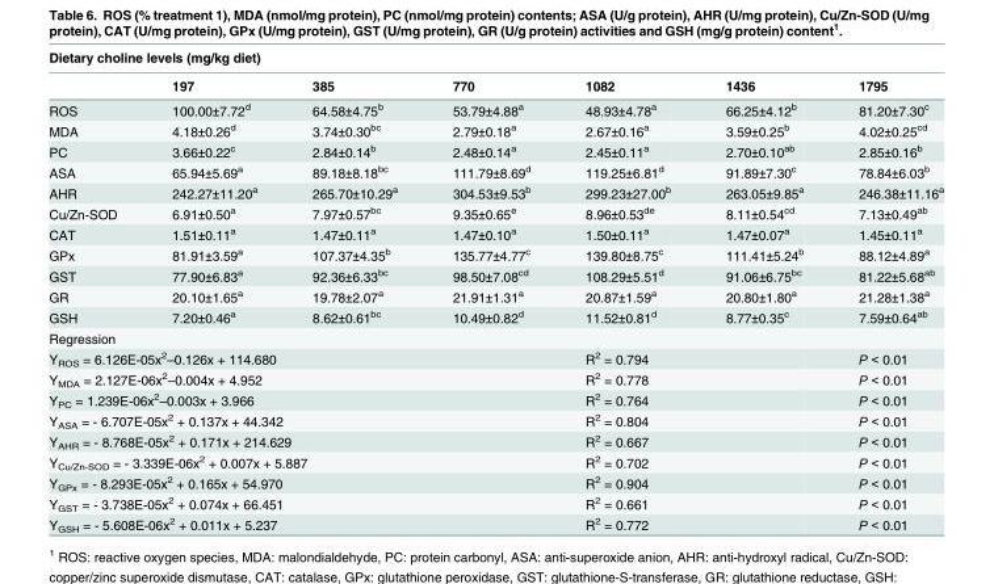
<table><thead><tr><td colspan="7">Dietary choline levels (mg/kg diet)</td></tr><tr><td></td><td>197</td><td>385</td><td>770</td><td>1082</td><td>1436</td><td>1795</td></tr></thead><tbody><tr><td>ROS</td><td>100.00±7.72<sup>d</sup></td><td>64.58±4.75<sup>b</sup></td><td>53.79±4.88<sup>a</sup></td><td>48.93±4.78<sup>a</sup></td><td>66.25±4.12<sup>b</sup></td><td>81.20±7.30<sup>c</sup></td></tr><tr><td>MDA</td><td>4.18±0.26<sup>d</sup></td><td>3.74±0.30<sup>bc</sup></td><td>2.79±0.18<sup>a</sup></td><td>2.67±0.16<sup>a</sup></td><td>3.59±0.25<sup>b</sup></td><td>4.02±0.25<sup>cd</sup></td></tr><tr><td>PC</td><td>3.66±0.22<sup>c</sup></td><td>2.84±0.14<sup>b</sup></td><td>2.48±0.14<sup>a</sup></td><td>2.45±0.11<sup>a</sup></td><td>2.70±0.10<sup>ab</sup></td><td>2.85±0.16<sup>b</sup></td></tr><tr><td>ASA</td><td>65.94±5.69<sup>a</sup></td><td>89.18±8.18<sup>bc</sup></td><td>111.79±8.69<sup>d</sup></td><td>119.25±6.81<sup>d</sup></td><td>91.89±7.30<sup>c</sup></td><td>78.84±6.03<sup>b</sup></td></tr><tr><td>AHR</td><td>242.27±11.20<sup>a</sup></td><td>265.70±10.29<sup>a</sup></td><td>304.53±9.53<sup>b</sup></td><td>299.23±27.00<sup>b</sup></td><td>263.05±9.85<sup>a</sup></td><td>246.38±11.16<sup>a</sup></td></tr><tr><td>Cu/Zn-SOD</td><td>6.91±0.50<sup>a</sup></td><td>7.97±0.57<sup>bc</sup></td><td>9.35±0.65<sup>e</sup></td><td>8.96±0.53<sup>de</sup></td><td>8.11±0.54<sup>cd</sup></td><td>7.13±0.49<sup>ab</sup></td></tr><tr><td>CAT</td><td>1.51±0.11<sup>a</sup></td><td>1.47±0.11<sup>a</sup></td><td>1.47±0.10<sup>a</sup></td><td>1.50±0.11<sup>a</sup></td><td>1.47±0.07<sup>a</sup></td><td>1.45±0.11<sup>a</sup></td></tr><tr><td>GPx</td><td>81.91±3.59<sup>a</sup></td><td>107.37±4.35<sup>b</sup></td><td>135.77±4.77<sup>c</sup></td><td>139.80±8.75<sup>c</sup></td><td>111.41±5.24<sup>b</sup></td><td>88.12±4.89<sup>a</sup></td></tr><tr><td>GST</td><td>77.90±6.83<sup>a</sup></td><td>92.36±6.33<sup>bc</sup></td><td>98.50±7.08<sup>cd</sup></td><td>108.29±5.51<sup>d</sup></td><td>91.06±6.75<sup>bc</sup></td><td>81.22±5.68<sup>ab</sup></td></tr><tr><td>GR</td><td>20.10±1.65<sup>a</sup></td><td>19.78±2.07<sup>a</sup></td><td>21.91±1.31<sup>a</sup></td><td>20.87±1.59<sup>a</sup></td><td>20.80±1.80<sup>a</sup></td><td>21.28±1.38<sup>a</sup></td></tr><tr><td>GSH</td><td>7.20±0.46<sup>a</sup></td><td>8.62±0.61<sup>bc</sup></td><td>10.49±0.82<sup>d</sup></td><td>11.52±0.81<sup>d</sup></td><td>8.77±0.35<sup>c</sup></td><td>7.59±0.64<sup>ab</sup></td></tr><tr><td colspan="7">Regression</td></tr><tr><td colspan="4">Y<sub>ROS</sub> = 6.126E-05x<sup>2</sup>–0.126x + 114.680</td><td colspan="2">R<sup>2</sup> = 0.794</td><td>P &lt; 0.01</td></tr><tr><td colspan="4">Y<sub>MDA</sub> = 2.127E-06x<sup>2</sup>–0.004x + 4.952</td><td colspan="2">R<sup>2</sup> = 0.778</td><td>P &lt; 0.01</td></tr><tr><td colspan="4">Y<sub>PC</sub> = 1.239E-06x<sup>2</sup>–0.003x + 3.966</td><td colspan="2">R<sup>2</sup> = 0.764</td><td>P &lt; 0.01</td></tr><tr><td colspan="4">Y<sub>ASA</sub> = - 6.707E-05x<sup>2</sup> + 0.137x + 44.342</td><td colspan="2">R<sup>2</sup> = 0.804</td><td>P &lt; 0.01</td></tr><tr><td colspan="4">Y<sub>AHR</sub> = - 8.768E-05x<sup>2</sup> + 0.171x + 214.629</td><td colspan="2">R<sup>2</sup> = 0.667</td><td>P &lt; 0.01</td></tr><tr><td colspan="4">Y<sub>Cu/Zn-SOD</sub> = - 3.339E-06x<sup>2</sup> + 0.007x + 5.887</td><td colspan="2">R<sup>2</sup> = 0.702</td><td>P &lt; 0.01</td></tr><tr><td colspan="4">Y<sub>GPx</sub> = - 8.293E-05x<sup>2</sup> + 0.165x + 54.970</td><td colspan="2">R<sup>2</sup> = 0.904</td><td>P &lt; 0.01</td></tr><tr><td colspan="4">Y<sub>GST</sub> = - 3.738E-05x<sup>2</sup> + 0.074x + 66.451</td><td colspan="2">R<sup>2</sup> = 0.661</td><td>P &lt; 0.01</td></tr><tr><td colspan="4">Y<sub>GSH</sub> = - 5.608E-06x<sup>2</sup> + 0.011x + 5.237</td><td colspan="2">R<sup>2</sup> = 0.772</td><td>P &lt; 0.01</td></tr></tbody></table>